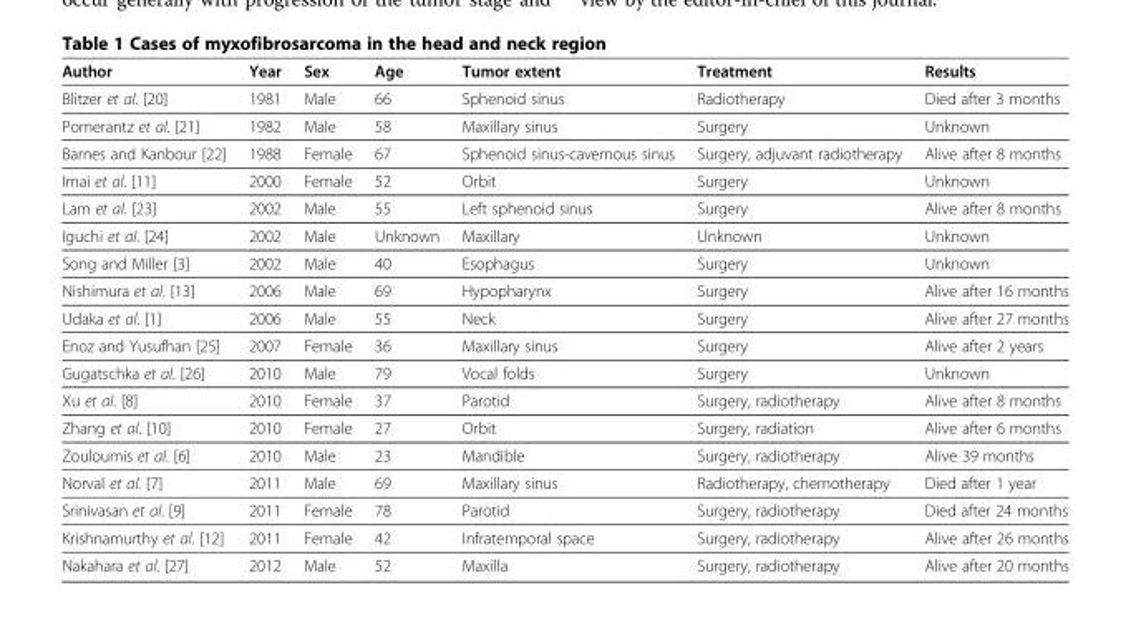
<table><thead><tr><td>Author</td><td>Year</td><td>Sex</td><td>Age</td><td>Tumor extent</td><td>Treatment</td><td>Results</td></tr></thead><tbody><tr><td>Blitzer et al. [20]</td><td>1981</td><td>Male</td><td>66</td><td>Sphenoid sinus</td><td>Radiotherapy</td><td>Died after 3 months</td></tr><tr><td>Pomerantz et al. [21]</td><td>1982</td><td>Male</td><td>58</td><td>Maxillary sinus</td><td>Surgery</td><td>Unknown</td></tr><tr><td>Barnes and Kanbour [22]</td><td>1988</td><td>Female</td><td>67</td><td>Sphenoid sinus-cavernous sinus</td><td>Surgery, adjuvant radiotherapy</td><td>Alive after 8 months</td></tr><tr><td>Imai et al. [11]</td><td>2000</td><td>Female</td><td>52</td><td>Orbit</td><td>Surgery</td><td>Unknown</td></tr><tr><td>Lam et al. [23]</td><td>2002</td><td>Male</td><td>55</td><td>Left sphenoid sinus</td><td>Surgery</td><td>Alive after 8 months</td></tr><tr><td>Iguchi et al. [24]</td><td>2002</td><td>Male</td><td>Unknown</td><td>Maxillary</td><td>Unknown</td><td>Unknown</td></tr><tr><td>Song and Miller [3]</td><td>2002</td><td>Male</td><td>40</td><td>Esophagus</td><td>Surgery</td><td>Unknown</td></tr><tr><td>Nishimura et al. [13]</td><td>2006</td><td>Male</td><td>69</td><td>Hypopharynx</td><td>Surgery</td><td>Alive after 16 months</td></tr><tr><td>Udaka et al. [1]</td><td>2006</td><td>Male</td><td>55</td><td>Neck</td><td>Surgery</td><td>Alive after 27 months</td></tr><tr><td>Enoz and Yusufhan [25]</td><td>2007</td><td>Female</td><td>36</td><td>Maxillary sinus</td><td>Surgery</td><td>Alive after 2 years</td></tr><tr><td>Gugatschka et al. [26]</td><td>2010</td><td>Male</td><td>79</td><td>Vocal folds</td><td>Surgery</td><td>Unknown</td></tr><tr><td>Xu et al. [8]</td><td>2010</td><td>Female</td><td>37</td><td>Parotid</td><td>Surgery, radiotherapy</td><td>Alive after 8 months</td></tr><tr><td>Zhang et al. [10]</td><td>2010</td><td>Female</td><td>27</td><td>Orbit</td><td>Surgery, radiation</td><td>Alive after 6 months</td></tr><tr><td>Zouloumis et al. [6]</td><td>2010</td><td>Male</td><td>23</td><td>Mandible</td><td>Surgery, radiotherapy</td><td>Alive 39 months</td></tr><tr><td>Norval et al. [7]</td><td>2011</td><td>Male</td><td>69</td><td>Maxillary sinus</td><td>Radiotherapy, chemotherapy</td><td>Died after 1 year</td></tr><tr><td>Srinivasan et al. [9]</td><td>2011</td><td>Female</td><td>78</td><td>Parotid</td><td>Surgery, radiotherapy</td><td>Died after 24 months</td></tr><tr><td>Krishnamurthy et al. [12]</td><td>2011</td><td>Female</td><td>42</td><td>Infratemporal space</td><td>Surgery, radiotherapy</td><td>Alive after 26 months</td></tr><tr><td>Nakahara et al. [27]</td><td>2012</td><td>Male</td><td>52</td><td>Maxilla</td><td>Surgery, radiotherapy</td><td>Alive after 20 months</td></tr></tbody></table>